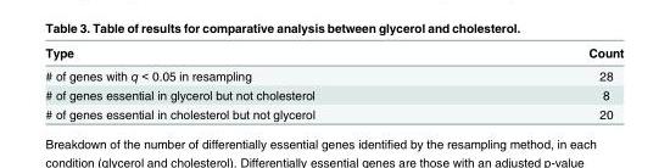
<table><thead><tr><td>Type</td><td>Count</td></tr></thead><tbody><tr><td># of genes with q &lt; 0.05 in resampling</td><td>28</td></tr><tr><td># of genes essential in glycerol but not cholesterol</td><td>8</td></tr><tr><td># of genes essential in cholesterol but not glycerol</td><td>20</td></tr></tbody></table>